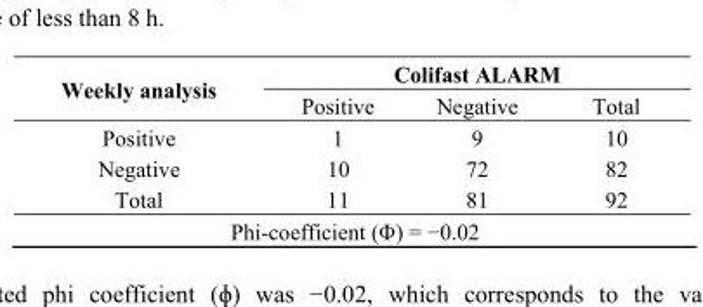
<table><thead><tr><td rowspan="2">Weekly analysis</td><td colspan="3">Colifast ALARM</td></tr><tr><td>Positive</td><td>Negative</td><td>Total</td></tr></thead><tbody><tr><td>Positive</td><td>1</td><td>9</td><td>10</td></tr><tr><td>Negative</td><td>10</td><td>72</td><td>82</td></tr><tr><td>Total</td><td>11</td><td>81</td><td>92</td></tr><tr><td colspan="4">Phi-coefficient (Φ) = −0.02</td></tr></tbody></table>